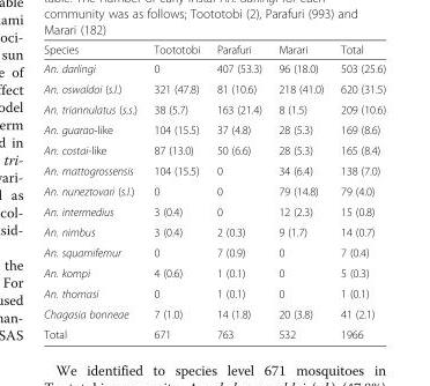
<table><thead><tr><td>Species</td><td>Toototobi</td><td>Parafuri</td><td>Marari</td><td>Total</td></tr></thead><tbody><tr><td>An. darlingi</td><td>0</td><td>407 (53.3)</td><td>96 (18.0)</td><td>503 (25.6)</td></tr><tr><td>An. oswaldoi (s.l.)</td><td>321 (47.8)</td><td>81 (10.6)</td><td>218 (41.0)</td><td>620 (31.5)</td></tr><tr><td>An. triannulatus (s.s.)</td><td>38 (5.7)</td><td>163 (21.4)</td><td>8 (1.5)</td><td>209 (10.6)</td></tr><tr><td>An. guarao-like</td><td>104 (15.5)</td><td>37 (4.8)</td><td>28 (5.3)</td><td>169 (8.6)</td></tr><tr><td>An. costai-like</td><td>87 (13.0)</td><td>50 (6.6)</td><td>28 (5.3)</td><td>165 (8.4)</td></tr><tr><td>An. mattogrossensis</td><td>104 (15.5)</td><td>0</td><td>34 (6.4)</td><td>138 (7.0)</td></tr><tr><td>An. nuneztovari (s.l.)</td><td>0</td><td>0</td><td>79 (14.8)</td><td>79 (4.0)</td></tr><tr><td>An. intermedius</td><td>3 (0.4)</td><td>0</td><td>12 (2.3)</td><td>15 (0.8)</td></tr><tr><td>An. nimbus</td><td>3 (0.4)</td><td>2 (0.3)</td><td>9 (1.7)</td><td>14 (0.7)</td></tr><tr><td>An. squamifemur</td><td>0</td><td>7 (0.9)</td><td>0</td><td>7 (0.4)</td></tr><tr><td>An. kompi</td><td>4 (0.6)</td><td>1 (0.1)</td><td>0</td><td>5 (0.3)</td></tr><tr><td>An. thomasi</td><td>0</td><td>1 (0.1)</td><td>0</td><td>1 (0.1)</td></tr><tr><td>Chagasia bonneae</td><td>7 (1.0)</td><td>14 (1.8)</td><td>20 (3.8)</td><td>41 (2.1)</td></tr><tr><td>Total</td><td>671</td><td>763</td><td>532</td><td>1966</td></tr></tbody></table>